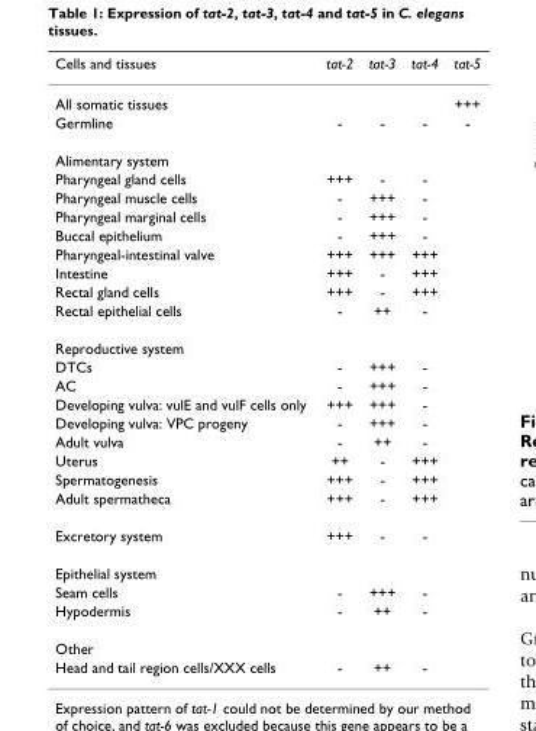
<table><thead><tr><td>Cells and tissues</td><td>tat-2</td><td>tat-3</td><td>tat-4</td><td>tat-5</td></tr></thead><tbody><tr><td>All somatic tissues</td><td></td><td></td><td></td><td>+++</td></tr><tr><td>Germline</td><td>-</td><td>-</td><td>-</td><td>-</td></tr><tr><td colspan="5">Alimentary system</td></tr><tr><td>Pharyngeal gland cells</td><td>+++</td><td>-</td><td>-</td><td></td></tr><tr><td>Pharyngeal muscle cells</td><td>-</td><td>+++</td><td>-</td><td></td></tr><tr><td>Pharyngeal marginal cells</td><td>-</td><td>+++</td><td>-</td><td></td></tr><tr><td>Buccal epithelium</td><td>-</td><td>+++</td><td>-</td><td></td></tr><tr><td>Pharyngeal-intestinal valve</td><td>+++</td><td>+++</td><td>+++</td><td></td></tr><tr><td>Intestine</td><td>+++</td><td>-</td><td>+++</td><td></td></tr><tr><td>Rectal gland cells</td><td>+++</td><td>-</td><td>+++</td><td></td></tr><tr><td>Rectal epithelial cells</td><td>-</td><td>++</td><td>-</td><td></td></tr><tr><td colspan="5">Reproductive system</td></tr><tr><td>DTCs</td><td>-</td><td>+++</td><td>-</td><td></td></tr><tr><td>AC</td><td>-</td><td>+++</td><td>-</td><td></td></tr><tr><td>Developing vulva: vulE and vulF cells only</td><td>+++</td><td>+++</td><td>-</td><td></td></tr><tr><td>Developing vulva: VPC progeny</td><td>-</td><td>+++</td><td>-</td><td></td></tr><tr><td>Adult vulva</td><td>-</td><td>++</td><td>-</td><td></td></tr><tr><td>Uterus</td><td>++</td><td>-</td><td>+++</td><td></td></tr><tr><td>Spermatogenesis</td><td>+++</td><td>-</td><td>+++</td><td></td></tr><tr><td>Adult spermatheca</td><td>+++</td><td>-</td><td>+++</td><td></td></tr><tr><td>Excretory system</td><td>+++</td><td>-</td><td>-</td><td></td></tr><tr><td colspan="5">Epithelial system</td></tr><tr><td>Seam cells</td><td>-</td><td>+++</td><td>-</td><td></td></tr><tr><td>Hypodermis</td><td>-</td><td>++</td><td>-</td><td></td></tr><tr><td colspan="5">Other</td></tr><tr><td>Head and tail region cells/XXX cells</td><td>-</td><td>++</td><td>-</td><td></td></tr></tbody></table>